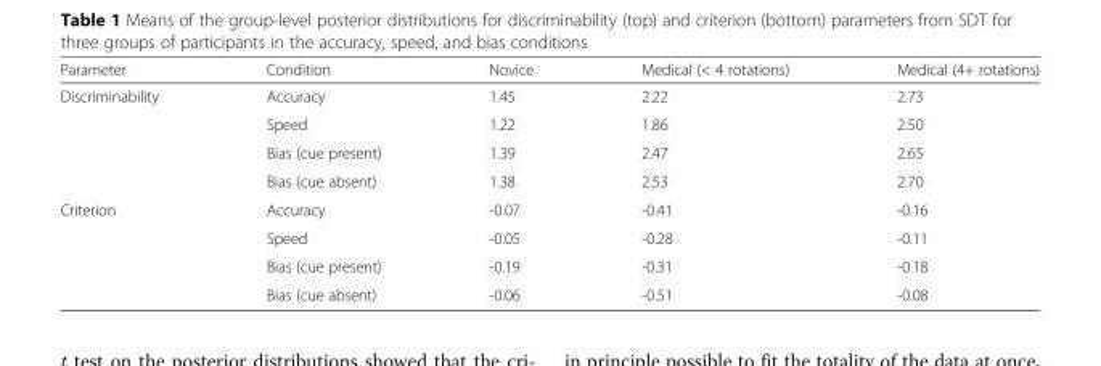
<table><thead><tr><td>Parameter</td><td>Condition</td><td>Novice</td><td>Medical (&lt; 4 rotations)</td><td>Medical (4+ rotations)</td></tr></thead><tbody><tr><td rowspan="4">Discriminability</td><td>Accuracy</td><td>1.45</td><td>2.22</td><td>2.73</td></tr><tr><td>Speed</td><td>1.22</td><td>1.86</td><td>2.50</td></tr><tr><td>Bias (cue present)</td><td>1.39</td><td>2.47</td><td>2.65</td></tr><tr><td>Bias (cue absent)</td><td>1.38</td><td>2.53</td><td>2.70</td></tr><tr><td rowspan="4">Criterion</td><td>Accuracy</td><td>-0.07</td><td>-0.41</td><td>-0.16</td></tr><tr><td>Speed</td><td>-0.05</td><td>-0.28</td><td>-0.11</td></tr><tr><td>Bias (cue present)</td><td>-0.19</td><td>-0.31</td><td>-0.18</td></tr><tr><td>Bias (cue absent)</td><td>-0.06</td><td>-0.51</td><td>-0.08</td></tr></tbody></table>